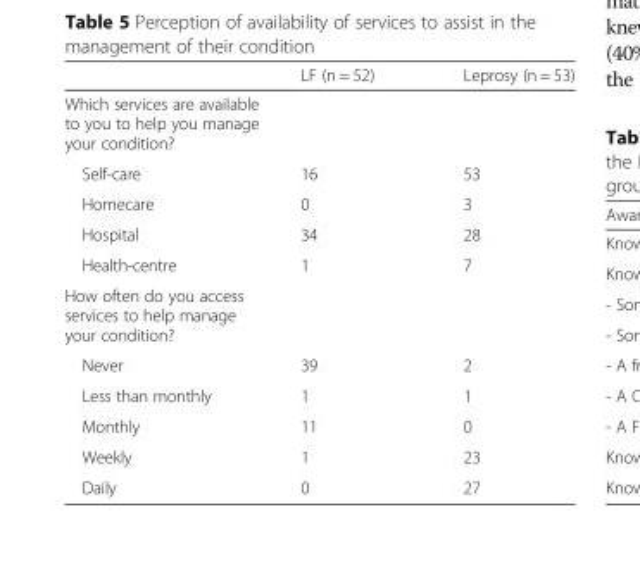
<table><thead><tr><td></td><td>LF (n = 52)</td><td>Leprosy (n = 53)</td></tr></thead><tbody><tr><td colspan="3">Which services are available to you to help you manage your condition?</td></tr><tr><td>Self-care</td><td>16</td><td>53</td></tr><tr><td>Homecare</td><td>0</td><td>3</td></tr><tr><td>Hospital</td><td>34</td><td>28</td></tr><tr><td>Health-centre</td><td>1</td><td>7</td></tr><tr><td colspan="3">How often do you access services to help manage your condition?</td></tr><tr><td>Never</td><td>39</td><td>2</td></tr><tr><td>Less than monthly</td><td>1</td><td>1</td></tr><tr><td>Monthly</td><td>11</td><td>0</td></tr><tr><td>Weekly</td><td>1</td><td>23</td></tr><tr><td>Daily</td><td>0</td><td>27</td></tr></tbody></table>